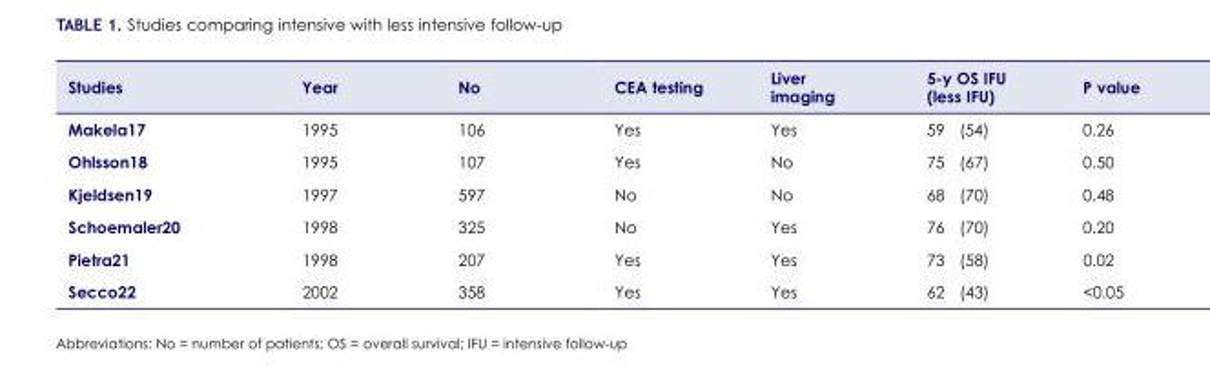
<table><thead><tr><td>Studies</td><td>Year</td><td>No</td><td>CEA testing</td><td>Liver imaging</td><td>5-y OS IFU (less IFU)</td><td>P value</td></tr></thead><tbody><tr><td>Makela<sup>17</sup></td><td>1995</td><td>106</td><td>Yes</td><td>Yes</td><td>59 (54)</td><td>0.26</td></tr><tr><td>Ohlsson<sup>18</sup></td><td>1995</td><td>107</td><td>Yes</td><td>No</td><td>75 (67)</td><td>0.50</td></tr><tr><td>Kjeldsen<sup>19</sup></td><td>1997</td><td>597</td><td>No</td><td>No</td><td>68 (70)</td><td>0.48</td></tr><tr><td>Schoemaler<sup>20</sup></td><td>1998</td><td>325</td><td>No</td><td>Yes</td><td>76 (70)</td><td>0.20</td></tr><tr><td>Pietra<sup>21</sup></td><td>1998</td><td>207</td><td>Yes</td><td>Yes</td><td>73 (58)</td><td>0.02</td></tr><tr><td>Secco<sup>22</sup></td><td>2002</td><td>358</td><td>Yes</td><td>Yes</td><td>62 (43)</td><td>&lt;0.05</td></tr></tbody></table>